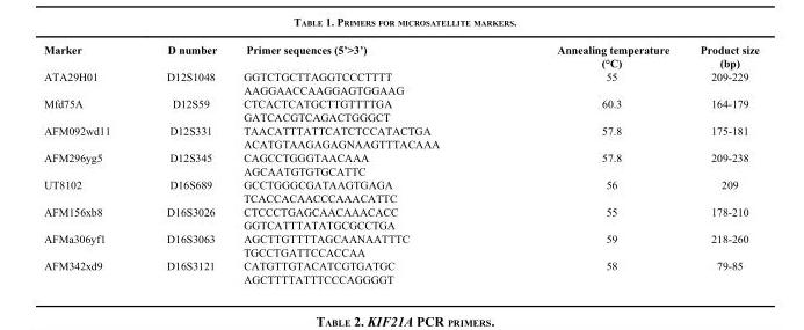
<table><thead><tr><td>Marker</td><td>D number</td><td>Primer sequences (5’&gt;3’)</td><td>Annealing temperature (°C)</td><td>Product size (bp)</td></tr></thead><tbody><tr><td rowspan="2">ATA29H01</td><td>D12S1048</td><td>GGTCTGCTTAGGTCCCTTTT</td><td>55</td><td>209-229</td></tr><tr><td></td><td>AAGGAACCAAGGAGTGGAAG</td><td></td><td></td></tr><tr><td rowspan="2">Mfd75A</td><td>D12S59</td><td>CTCACTCATGCTTGTTTTGA</td><td>60.3</td><td>164-179</td></tr><tr><td></td><td>GATCACGTCAGACTGGGCT</td><td></td><td></td></tr><tr><td rowspan="2">AFM092wd11</td><td>D12S331</td><td>TAACATTTATTCATCTCCATACTGA</td><td>57.8</td><td>175-181</td></tr><tr><td></td><td>ACATGTAAGAGAGNAAGTTTACAAA</td><td></td><td></td></tr><tr><td rowspan="2">AFM296yg5</td><td>D12S345</td><td>CAGCCTGGGTAACAAA</td><td>57.8</td><td>209-238</td></tr><tr><td></td><td>AGCAATGTGTGCATTC</td><td></td><td></td></tr><tr><td rowspan="2">UT8102</td><td>D16S689</td><td>GCCTGGGCGATAAGTGAGA</td><td>56</td><td>209</td></tr><tr><td></td><td>TCACCACAACCCAAACATTC</td><td></td><td></td></tr><tr><td rowspan="2">AFM156xb8</td><td>D16S3026</td><td>CTCCCTGAGCAACAAACACC</td><td>55</td><td>178-210</td></tr><tr><td></td><td>GGTCATTTATATGCGCCTGA</td><td></td><td></td></tr><tr><td rowspan="2">AFMa306yf1</td><td>D16S3063</td><td>AGCTTGTTTTAGCAANAATTTC</td><td>59</td><td>218-260</td></tr><tr><td></td><td>TGCCTGATTCCACCAA</td><td></td><td></td></tr><tr><td rowspan="2">AFM342xd9</td><td>D16S3121</td><td>CATGTTGTACATCGTGATGC</td><td>58</td><td>79-85</td></tr><tr><td></td><td>AGCTTTTATTTCCCAGGGGT</td><td></td><td></td></tr></tbody></table>